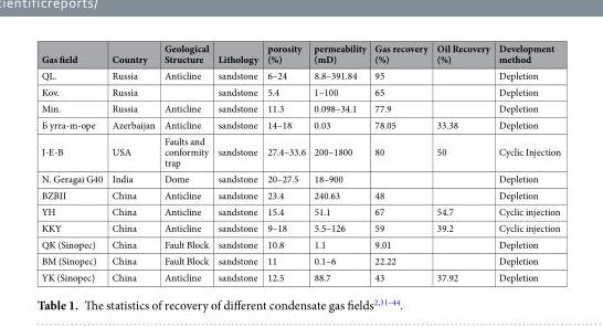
<table><thead><tr><td>Gas field</td><td>Country</td><td>Geological Structure</td><td>Lithology</td><td>porosity (%)</td><td>permeability (mD)</td><td>Gas recovery (%)</td><td>Oil Recovery (%)</td><td>Development method</td></tr></thead><tbody><tr><td>QL.</td><td>Russia</td><td>Anticline</td><td>sandstone</td><td>6–24</td><td>8.8–391.84</td><td>95</td><td></td><td>Depletion</td></tr><tr><td>Kov.</td><td>Russia</td><td></td><td>sandstone</td><td>5.4</td><td>1–100</td><td>65</td><td></td><td>Depletion</td></tr><tr><td>Min.</td><td>Russia</td><td>Anticline</td><td>sandstone</td><td>11.3</td><td>0.098–34.1</td><td>77.9</td><td></td><td>Depletion</td></tr><tr><td>Б yrra-m-ope</td><td>Azerbaijan</td><td>Anticline</td><td>sandstone</td><td>14–18</td><td>0.03</td><td>78.05</td><td>33.38</td><td>Depletion</td></tr><tr><td>J-E-B</td><td>USA</td><td>Faults and conformity trap</td><td>sandstone</td><td>27.4–33.6</td><td>200–1800</td><td>80</td><td>50</td><td>Cyclic Injection</td></tr><tr><td>N. Geragai G40</td><td>India</td><td>Dome</td><td>sandstone</td><td>20–27.5</td><td>18–900</td><td></td><td></td><td>Depletion</td></tr><tr><td>BZBII</td><td>China</td><td>Anticline</td><td>sandstone</td><td>23.4</td><td>240.63</td><td>48</td><td></td><td>Depletion</td></tr><tr><td>YH</td><td>China</td><td>Anticline</td><td>sandstone</td><td>15.4</td><td>51.1</td><td>67</td><td>54.7</td><td>Cyclic injection</td></tr><tr><td>KKY</td><td>China</td><td>Anticline</td><td>sandstone</td><td>9–18</td><td>5.5–126</td><td>59</td><td>39.2</td><td>Cyclic injection</td></tr><tr><td>QK (Sinopec)</td><td>China</td><td>Fault Block</td><td>sandstone</td><td>10.8</td><td>1.1</td><td>9.01</td><td></td><td>Depletion</td></tr><tr><td>BM (Sinopec)</td><td>China</td><td>Fault Block</td><td>sandstone</td><td>11</td><td>0.1–6</td><td>22.22</td><td></td><td>Depletion</td></tr><tr><td>YK (Sinopec)</td><td>China</td><td>Anticline</td><td>sandstone</td><td>12.5</td><td>88.7</td><td>43</td><td>37.92</td><td>Depletion</td></tr></tbody></table>